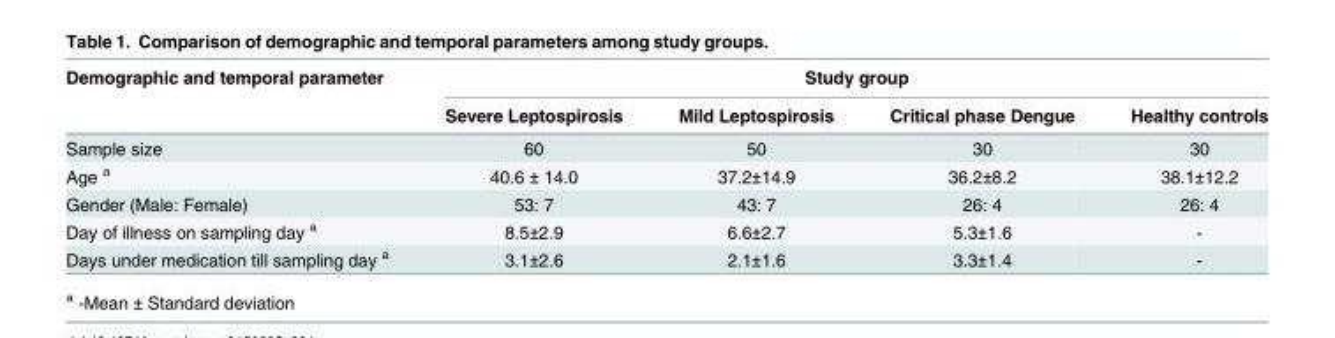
<table><thead><tr><td rowspan="2">Demographic and temporal parameter</td><td colspan="4">Study group</td></tr><tr><td>Severe Leptospirosis</td><td>Mild Leptospirosis</td><td>Critical phase Dengue</td><td>Healthy controls</td></tr></thead><tbody><tr><td>Sample size</td><td>60</td><td>50</td><td>30</td><td>30</td></tr><tr><td>Age <sup>a</sup></td><td>40.6 ± 14.0</td><td>37.2±14.9</td><td>36.2±8.2</td><td>38.1±12.2</td></tr><tr><td>Gender (Male: Female)</td><td>53: 7</td><td>43: 7</td><td>26: 4</td><td>26: 4</td></tr><tr><td>Day of illness on sampling day <sup>a</sup></td><td>8.5±2.9</td><td>6.6±2.7</td><td>5.3±1.6</td><td>-</td></tr><tr><td>Days under medication till sampling day <sup>a</sup></td><td>3.1±2.6</td><td>2.1±1.6</td><td>3.3±1.4</td><td>-</td></tr></tbody></table>